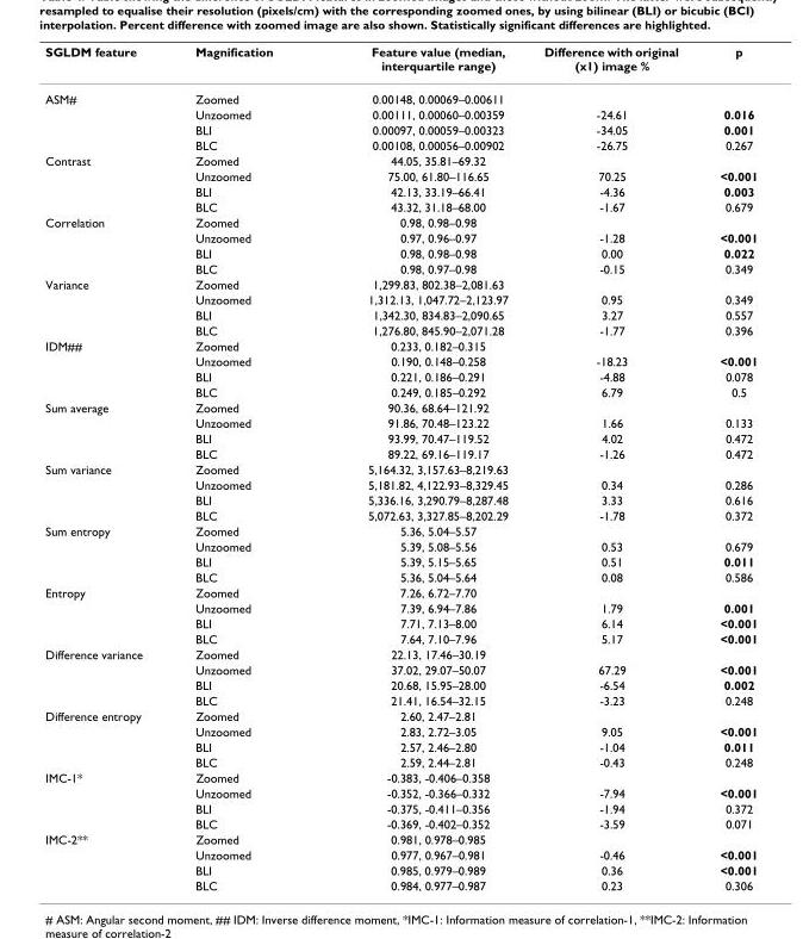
<table><thead><tr><td>SGLDM feature</td><td>Magnification</td><td>Feature value (median, interquartile range)</td><td>Difference with original (x1) image %</td><td>p</td></tr></thead><tbody><tr><td rowspan="4">ASM#</td><td>Zoomed</td><td>0.00148, 0.00069–0.00611</td><td></td><td></td></tr><tr><td>Unzoomed</td><td>0.00111, 0.00060–0.00359</td><td>-24.61</td><td>0.016</td></tr><tr><td>BLI</td><td>0.00097, 0.00059–0.00323</td><td>-34.05</td><td>0.001</td></tr><tr><td>BLC</td><td>0.00108, 0.00056–0.00902</td><td>-26.75</td><td>0.267</td></tr><tr><td rowspan="4">Contrast</td><td>Zoomed</td><td>44.05, 35.81–69.32</td><td></td><td></td></tr><tr><td>Unzoomed</td><td>75.00, 61.80–116.65</td><td>70.25</td><td>&lt;0.001</td></tr><tr><td>BLI</td><td>42.13, 33.19–66.41</td><td>-4.36</td><td>0.003</td></tr><tr><td>BLC</td><td>43.32, 31.18–68.00</td><td>-1.67</td><td>0.679</td></tr><tr><td rowspan="4">Correlation</td><td>Zoomed</td><td>0.98, 0.98–0.98</td><td></td><td></td></tr><tr><td>Unzoomed</td><td>0.97, 0.96–0.97</td><td>-1.28</td><td>&lt;0.001</td></tr><tr><td>BLI</td><td>0.98, 0.98–0.98</td><td>0.00</td><td>0.022</td></tr><tr><td>BLC</td><td>0.98, 0.97–0.98</td><td>-0.15</td><td>0.349</td></tr><tr><td rowspan="4">Variance</td><td>Zoomed</td><td>1,299.83, 802.38–2,081.63</td><td></td><td></td></tr><tr><td>Unzoomed</td><td>1,312.13, 1,047.72–2,123.97</td><td>0.95</td><td>0.349</td></tr><tr><td>BLI</td><td>1,342.30, 834.83–2,090.65</td><td>3.27</td><td>0.557</td></tr><tr><td>BLC</td><td>1,276.80, 845.90–2,071.28</td><td>-1.77</td><td>0.396</td></tr><tr><td rowspan="4">IDM##</td><td>Zoomed</td><td>0.233, 0.182–0.315</td><td></td><td></td></tr><tr><td>Unzoomed</td><td>0.190, 0.148–0.258</td><td>-18.23</td><td>&lt;0.001</td></tr><tr><td>BLI</td><td>0.221, 0.186–0.291</td><td>-4.88</td><td>0.078</td></tr><tr><td>BLC</td><td>0.249, 0.185–0.292</td><td>6.79</td><td>0.5</td></tr><tr><td rowspan="4">Sum average</td><td>Zoomed</td><td>90.36, 68.64–121.92</td><td></td><td></td></tr><tr><td>Unzoomed</td><td>91.86, 70.48–123.22</td><td>1.66</td><td>0.133</td></tr><tr><td>BLI</td><td>93.99, 70.47–119.52</td><td>4.02</td><td>0.472</td></tr><tr><td>BLC</td><td>89.22, 69.16–119.17</td><td>-1.26</td><td>0.472</td></tr><tr><td rowspan="4">Sum variance</td><td>Zoomed</td><td>5,164.32, 3,157.63–8,219.63</td><td></td><td></td></tr><tr><td>Unzoomed</td><td>5,181.82, 4,122.93–8,329.45</td><td>0.34</td><td>0.286</td></tr><tr><td>BLI</td><td>5,336.16, 3,290.79–8,287.48</td><td>3.33</td><td>0.616</td></tr><tr><td>BLC</td><td>5,072.63, 3,327.85–8,202.29</td><td>-1.78</td><td>0.372</td></tr><tr><td rowspan="4">Sum entropy</td><td>Zoomed</td><td>5.36, 5.04–5.57</td><td></td><td></td></tr><tr><td>Unzoomed</td><td>5.39, 5.08–5.56</td><td>0.53</td><td>0.679</td></tr><tr><td>BLI</td><td>5.39, 5.15–5.65</td><td>0.51</td><td>0.011</td></tr><tr><td>BLC</td><td>5.36, 5.04–5.64</td><td>0.08</td><td>0.586</td></tr><tr><td rowspan="4">Entropy</td><td>Zoomed</td><td>7.26, 6.72–7.70</td><td></td><td></td></tr><tr><td>Unzoomed</td><td>7.39, 6.94–7.86</td><td>1.79</td><td>0.001</td></tr><tr><td>BLI</td><td>7.71, 7.13–8.00</td><td>6.14</td><td>&lt;0.001</td></tr><tr><td>BLC</td><td>7.64, 7.10–7.96</td><td>5.17</td><td>&lt;0.001</td></tr><tr><td rowspan="4">Difference variance</td><td>Zoomed</td><td>22.13, 17.46–30.19</td><td></td><td></td></tr><tr><td>Unzoomed</td><td>37.02, 29.07–50.07</td><td>67.29</td><td>&lt;0.001</td></tr><tr><td>BLI</td><td>20.68, 15.95–28.00</td><td>-6.54</td><td>0.002</td></tr><tr><td>BLC</td><td>21.41, 16.54–32.15</td><td>-3.23</td><td>0.248</td></tr><tr><td rowspan="4">Difference entropy</td><td>Zoomed</td><td>2.60, 2.47–2.81</td><td></td><td></td></tr><tr><td>Unzoomed</td><td>2.83, 2.72–3.05</td><td>9.05</td><td>&lt;0.001</td></tr><tr><td>BLI</td><td>2.57, 2.46–2.80</td><td>-1.04</td><td>0.011</td></tr><tr><td>BLC</td><td>2.59, 2.44–2.81</td><td>-0.43</td><td>0.248</td></tr><tr><td rowspan="4">IMC-1*</td><td>Zoomed</td><td>-0.383, -0.406–0.358</td><td></td><td></td></tr><tr><td>Unzoomed</td><td>-0.352, -0.366–0.332</td><td>-7.94</td><td>&lt;0.001</td></tr><tr><td>BLI</td><td>-0.375, -0.411–0.356</td><td>-1.94</td><td>0.372</td></tr><tr><td>BLC</td><td>-0.369, -0.402–0.352</td><td>-3.59</td><td>0.071</td></tr><tr><td rowspan="4">IMC-2**</td><td>Zoomed</td><td>0.981, 0.978–0.985</td><td></td><td></td></tr><tr><td>Unzoomed</td><td>0.977, 0.967–0.981</td><td>-0.46</td><td>&lt;0.001</td></tr><tr><td>BLI</td><td>0.985, 0.979–0.989</td><td>0.36</td><td>&lt;0.001</td></tr><tr><td>BLC</td><td>0.984, 0.977–0.987</td><td>0.23</td><td>0.306</td></tr></tbody></table>